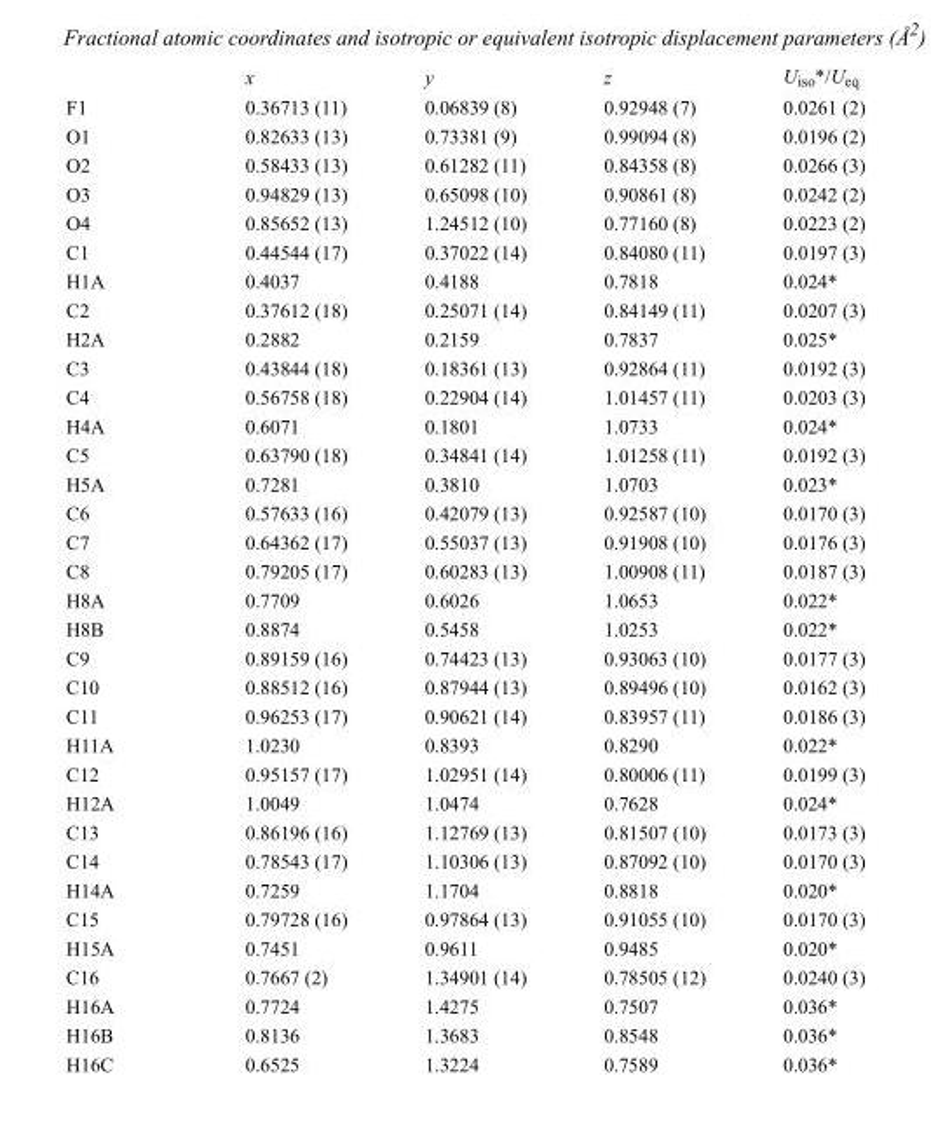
<table><thead><tr><td></td><td>x</td><td>y</td><td>z</td><td>U<sub>iso</sub>*/U<sub>eq</sub></td></tr></thead><tbody><tr><td>F1</td><td>0.36713 (11)</td><td>0.06839 (8)</td><td>0.92948 (7)</td><td>0.0261 (2)</td></tr><tr><td>O1</td><td>0.82633 (13)</td><td>0.73381 (9)</td><td>0.99094 (8)</td><td>0.0196 (2)</td></tr><tr><td>O2</td><td>0.58433 (13)</td><td>0.61282 (11)</td><td>0.84358 (8)</td><td>0.0266 (3)</td></tr><tr><td>O3</td><td>0.94829 (13)</td><td>0.65098 (10)</td><td>0.90861 (8)</td><td>0.0242 (2)</td></tr><tr><td>O4</td><td>0.85652 (13)</td><td>1.24512 (10)</td><td>0.77160 (8)</td><td>0.0223 (2)</td></tr><tr><td>C1</td><td>0.44544 (17)</td><td>0.37022 (14)</td><td>0.84080 (11)</td><td>0.0197 (3)</td></tr><tr><td>H1A</td><td>0.4037</td><td>0.4188</td><td>0.7818</td><td>0.024*</td></tr><tr><td>C2</td><td>0.37612 (18)</td><td>0.25071 (14)</td><td>0.84149 (11)</td><td>0.0207 (3)</td></tr><tr><td>H2A</td><td>0.2882</td><td>0.2159</td><td>0.7837</td><td>0.025*</td></tr><tr><td>C3</td><td>0.43844 (18)</td><td>0.18361 (13)</td><td>0.92864 (11)</td><td>0.0192 (3)</td></tr><tr><td>C4</td><td>0.56758 (18)</td><td>0.22904 (14)</td><td>1.01457 (11)</td><td>0.0203 (3)</td></tr><tr><td>H4A</td><td>0.6071</td><td>0.1801</td><td>1.0733</td><td>0.024*</td></tr><tr><td>C5</td><td>0.63790 (18)</td><td>0.34841 (14)</td><td>1.01258 (11)</td><td>0.0192 (3)</td></tr><tr><td>H5A</td><td>0.7281</td><td>0.3810</td><td>1.0703</td><td>0.023*</td></tr><tr><td>C6</td><td>0.57633 (16)</td><td>0.42079 (13)</td><td>0.92587 (10)</td><td>0.0170 (3)</td></tr><tr><td>C7</td><td>0.64362 (17)</td><td>0.55037 (13)</td><td>0.91908 (10)</td><td>0.0176 (3)</td></tr><tr><td>C8</td><td>0.79205 (17)</td><td>0.60283 (13)</td><td>1.00908 (11)</td><td>0.0187 (3)</td></tr><tr><td>H8A</td><td>0.7709</td><td>0.6026</td><td>1.0653</td><td>0.022*</td></tr><tr><td>H8B</td><td>0.8874</td><td>0.5458</td><td>1.0253</td><td>0.022*</td></tr><tr><td>C9</td><td>0.89159 (16)</td><td>0.74423 (13)</td><td>0.93063 (10)</td><td>0.0177 (3)</td></tr><tr><td>C10</td><td>0.88512 (16)</td><td>0.87944 (13)</td><td>0.89496 (10)</td><td>0.0162 (3)</td></tr><tr><td>C11</td><td>0.96253 (17)</td><td>0.90621 (14)</td><td>0.83957 (11)</td><td>0.0186 (3)</td></tr><tr><td>H11A</td><td>1.0230</td><td>0.8393</td><td>0.8290</td><td>0.022*</td></tr><tr><td>C12</td><td>0.95157 (17)</td><td>1.02951 (14)</td><td>0.80006 (11)</td><td>0.0199 (3)</td></tr><tr><td>H12A</td><td>1.0049</td><td>1.0474</td><td>0.7628</td><td>0.024*</td></tr><tr><td>C13</td><td>0.86196 (16)</td><td>1.12769 (13)</td><td>0.81507 (10)</td><td>0.0173 (3)</td></tr><tr><td>C14</td><td>0.78543 (17)</td><td>1.10306 (13)</td><td>0.87092 (10)</td><td>0.0170 (3)</td></tr><tr><td>H14A</td><td>0.7259</td><td>1.1704</td><td>0.8818</td><td>0.020*</td></tr><tr><td>C15</td><td>0.79728 (16)</td><td>0.97864 (13)</td><td>0.91055 (10)</td><td>0.0170 (3)</td></tr><tr><td>H15A</td><td>0.7451</td><td>0.9611</td><td>0.9485</td><td>0.020*</td></tr><tr><td>C16</td><td>0.7667 (2)</td><td>1.34901 (14)</td><td>0.78505 (12)</td><td>0.0240 (3)</td></tr><tr><td>H16A</td><td>0.7724</td><td>1.4275</td><td>0.7507</td><td>0.036*</td></tr><tr><td>H16B</td><td>0.8136</td><td>1.3683</td><td>0.8548</td><td>0.036*</td></tr><tr><td>H16C</td><td>0.6525</td><td>1.3224</td><td>0.7589</td><td>0.036*</td></tr></tbody></table>